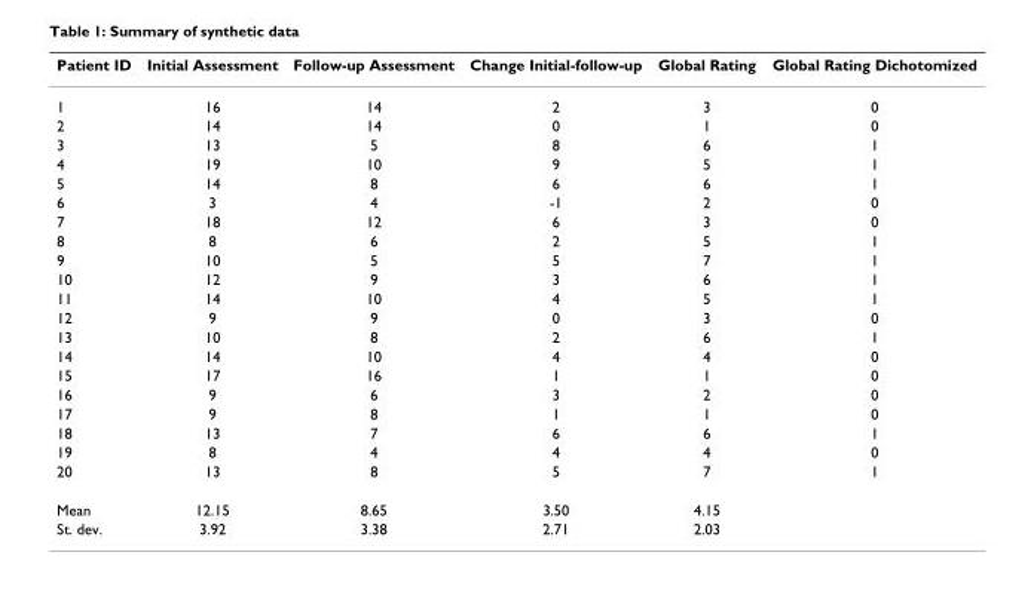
<table><thead><tr><td>Patient ID</td><td>Initial Assessment</td><td>Follow-up Assessment</td><td>Change Initial-follow-up</td><td>Global Rating</td><td>Global Rating Dichotomized</td></tr></thead><tbody><tr><td>1</td><td>16</td><td>14</td><td>2</td><td>3</td><td>0</td></tr><tr><td>2</td><td>14</td><td>14</td><td>0</td><td>1</td><td>0</td></tr><tr><td>3</td><td>13</td><td>5</td><td>8</td><td>6</td><td>1</td></tr><tr><td>4</td><td>19</td><td>10</td><td>9</td><td>5</td><td>1</td></tr><tr><td>5</td><td>14</td><td>8</td><td>6</td><td>6</td><td>1</td></tr><tr><td>6</td><td>3</td><td>4</td><td>-1</td><td>2</td><td>0</td></tr><tr><td>7</td><td>18</td><td>12</td><td>6</td><td>3</td><td>0</td></tr><tr><td>8</td><td>8</td><td>6</td><td>2</td><td>5</td><td>1</td></tr><tr><td>9</td><td>10</td><td>5</td><td>5</td><td>7</td><td>1</td></tr><tr><td>10</td><td>12</td><td>9</td><td>3</td><td>6</td><td>1</td></tr><tr><td>11</td><td>14</td><td>10</td><td>4</td><td>5</td><td>1</td></tr><tr><td>12</td><td>9</td><td>9</td><td>0</td><td>3</td><td>0</td></tr><tr><td>13</td><td>10</td><td>8</td><td>2</td><td>6</td><td>1</td></tr><tr><td>14</td><td>14</td><td>10</td><td>4</td><td>4</td><td>0</td></tr><tr><td>15</td><td>17</td><td>16</td><td>1</td><td>1</td><td>0</td></tr><tr><td>16</td><td>9</td><td>6</td><td>3</td><td>2</td><td>0</td></tr><tr><td>17</td><td>9</td><td>8</td><td>1</td><td>1</td><td>0</td></tr><tr><td>18</td><td>13</td><td>7</td><td>6</td><td>6</td><td>1</td></tr><tr><td>19</td><td>8</td><td>4</td><td>4</td><td>4</td><td>0</td></tr><tr><td>20</td><td>13</td><td>8</td><td>5</td><td>7</td><td>1</td></tr><tr><td>Mean</td><td>12.15</td><td>8.65</td><td>3.50</td><td>4.15</td><td></td></tr><tr><td>St. dev.</td><td>3.92</td><td>3.38</td><td>2.71</td><td>2.03</td><td></td></tr></tbody></table>